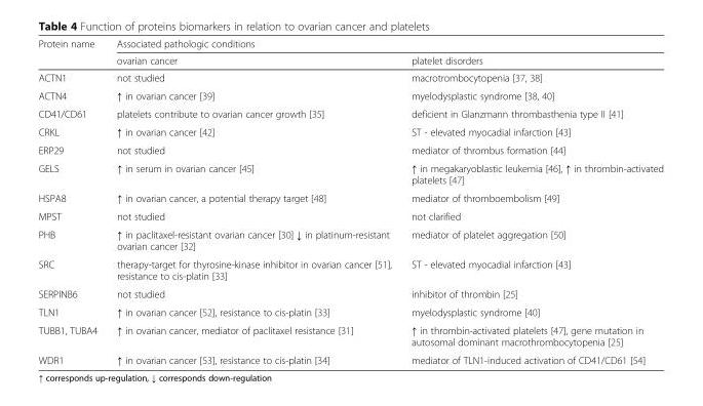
<table><thead><tr><td rowspan="2">Protein name</td><td colspan="2">Associated pathologic conditions</td></tr><tr><td>ovarian cancer</td><td>platelet disorders</td></tr></thead><tbody><tr><td>ACTN1</td><td>not studied</td><td>macrotrombocytopenia [37, 38]</td></tr><tr><td>ACTN4</td><td>↑ in ovarian cancer [39]</td><td>myelodysplastic syndrome [38, 40]</td></tr><tr><td>CD41/CD61</td><td>platelets contribute to ovarian cancer growth [35]</td><td>deficient in Glanzmann thrombasthenia type II [41]</td></tr><tr><td>CRKL</td><td>↑ in ovarian cancer [42]</td><td>ST - elevated myocadial infarction [43]</td></tr><tr><td>ERP29</td><td>not studied</td><td>mediator of thrombus formation [44]</td></tr><tr><td>GELS</td><td>↑ in serum in ovarian cancer [45]</td><td>↑ in megakaryoblastic leukemia [46], ↑ in thrombin-activated platelets [47]</td></tr><tr><td>HSPA8</td><td>↑ in ovarian cancer, a potential therapy target [48]</td><td>mediator of thromboembolism [49]</td></tr><tr><td>MPST</td><td>not studied</td><td>not clarified</td></tr><tr><td>PHB</td><td>↑ in paclitaxel-resistant ovarian cancer [30] ↓ in platinum-resistant ovarian cancer [32]</td><td>mediator of platelet aggregation [50]</td></tr><tr><td>SRC</td><td>therapy-target for thyrosine-kinase inhibitor in ovarian cancer [51], resistance to cis-platin [33]</td><td>ST - elevated myocadial infarction [43]</td></tr><tr><td>SERPINB6</td><td>not studied</td><td>inhibitor of thrombin [25]</td></tr><tr><td>TLN1</td><td>↑ in ovarian cancer [52], resistance to cis-platin [33]</td><td>myelodysplastic syndrome [40]</td></tr><tr><td>TUBB1, TUBA4</td><td>↑ in ovarian cancer, mediator of paclitaxel resistance [31]</td><td>↑ in thrombin-activated platelets [47], gene mutation in autosomal dominant macrothrombocytopenia [25]</td></tr><tr><td>WDR1</td><td>↑ in ovarian cancer [53], resistance to cis-platin [34]</td><td>mediator of TLN1-induced activation of CD41/CD61 [54]</td></tr></tbody></table>